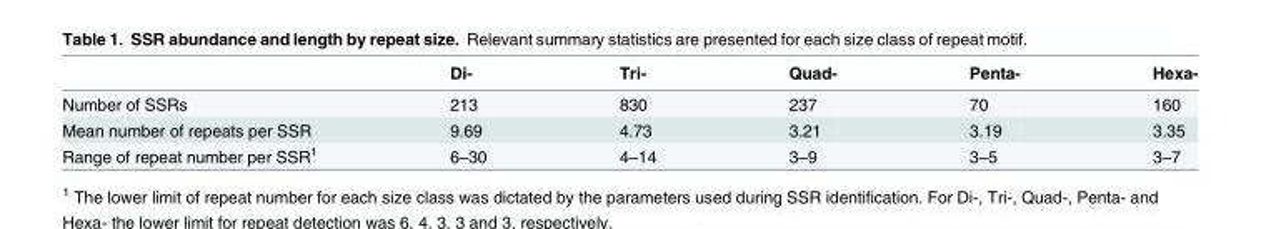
<table><thead><tr><td></td><td>Di-</td><td>Tri-</td><td>Quad-</td><td>Penta-</td><td>Hexa-</td></tr></thead><tbody><tr><td>Number of SSRs</td><td>213</td><td>830</td><td>237</td><td>70</td><td>160</td></tr><tr><td>Mean number of repeats per SSR</td><td>9.69</td><td>4.73</td><td>3.21</td><td>3.19</td><td>3.35</td></tr><tr><td>Range of repeat number per SSR<sup>1</sup></td><td>6–30</td><td>4–14</td><td>3–9</td><td>3–5</td><td>3–7</td></tr></tbody></table>